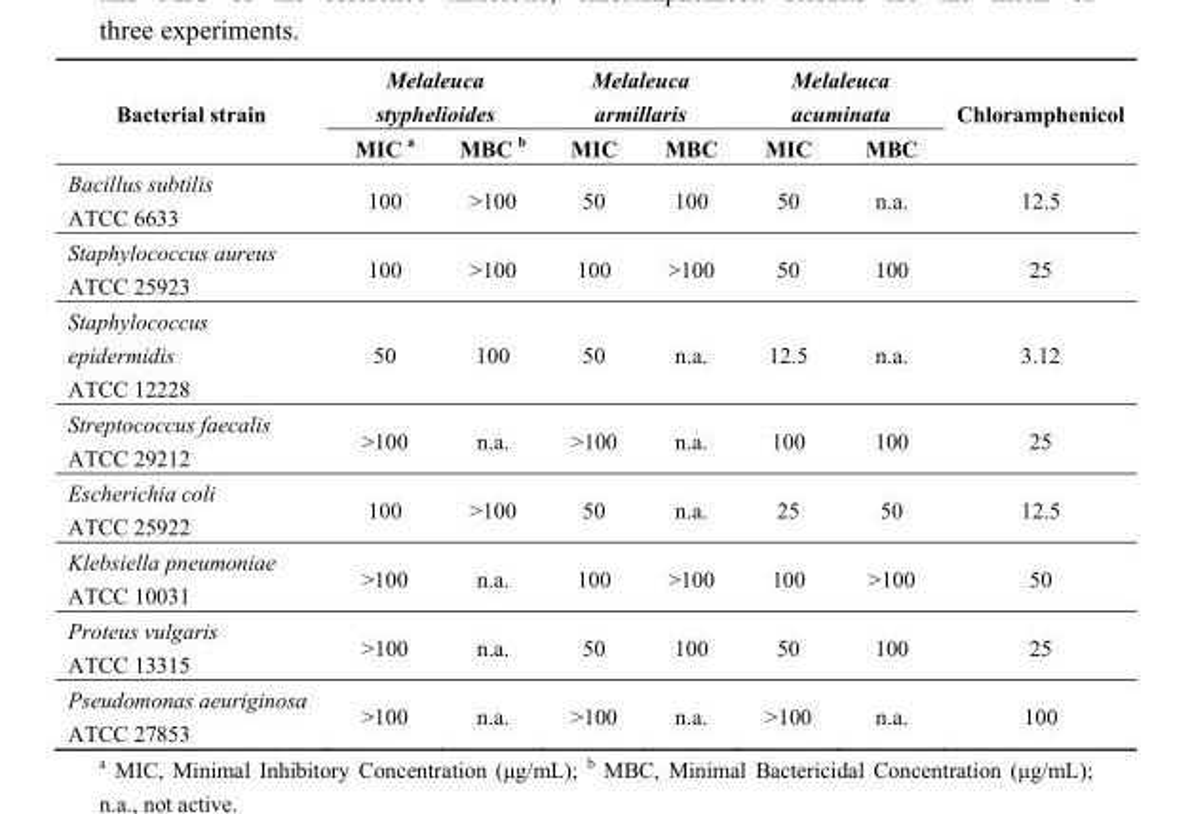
<table><thead><tr><td rowspan="2">Bacterial strain</td><td colspan="2">Melaleuca styphelioides</td><td colspan="2">Melaleuca armillaris</td><td colspan="2">Melaleuca acuminata</td><td rowspan="2">Chloramphenicol</td></tr><tr><td>MIC a</td><td>MBC b</td><td>MIC</td><td>MBC</td><td>MIC</td><td>MBC</td></tr></thead><tbody><tr><td>Bacillus subtilis ATCC 6633</td><td>100</td><td>&gt;100</td><td>50</td><td>100</td><td>50</td><td>n.a.</td><td>12.5</td></tr><tr><td>Staphylococcus aureus ATCC 25923</td><td>100</td><td>&gt;100</td><td>100</td><td>&gt;100</td><td>50</td><td>100</td><td>25</td></tr><tr><td>Staphylococcus epidermidis ATCC 12228</td><td>50</td><td>100</td><td>50</td><td>n.a.</td><td>12.5</td><td>n.a.</td><td>3.12</td></tr><tr><td>Streptococcus faecalis ATCC 29212</td><td>&gt;100</td><td>n.a.</td><td>&gt;100</td><td>n.a.</td><td>100</td><td>100</td><td>25</td></tr><tr><td>Escherichia coli ATCC 25922</td><td>100</td><td>&gt;100</td><td>50</td><td>n.a.</td><td>25</td><td>50</td><td>12.5</td></tr><tr><td>Klebsiella pneumoniae ATCC 10031</td><td>&gt;100</td><td>n.a.</td><td>100</td><td>&gt;100</td><td>100</td><td>&gt;100</td><td>50</td></tr><tr><td>Proteus vulgaris ATCC 13315</td><td>&gt;100</td><td>n.a.</td><td>50</td><td>100</td><td>50</td><td>100</td><td>25</td></tr><tr><td>Pseudomonas aeuriginosa ATCC 27853</td><td>&gt;100</td><td>n.a.</td><td>&gt;100</td><td>n.a.</td><td>&gt;100</td><td>n.a.</td><td>100</td></tr></tbody></table>